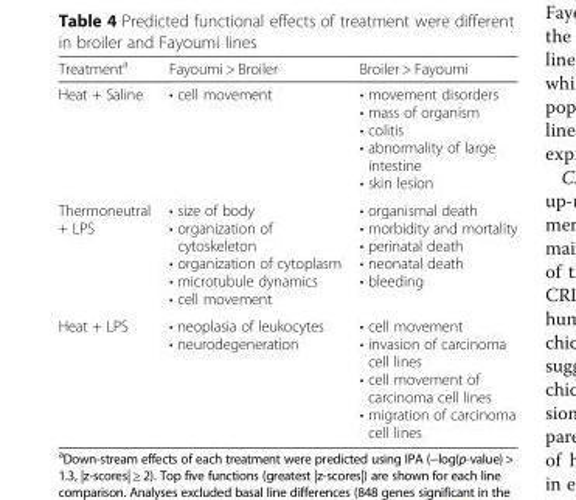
<table><thead><tr><td>Treatment<sup>a</sup></td><td>Fayoumi &gt; Broiler</td><td>Broiler &gt; Fayoumi</td></tr></thead><tbody><tr><td>Heat + Saline</td><td>• cell movement</td><td>• movement disorders • mass of organism • colitis • abnormality of large intestine • skin lesion</td></tr><tr><td>Thermoneutral + LPS</td><td>• size of body • organization of cytoskeleton • organization of cytoplasm • microtubule dynamics • cell movement</td><td>• organismal death • morbidity and mortality • perinatal death • neonatal death • bleeding</td></tr><tr><td>Heat + LPS</td><td>• neoplasia of leukocytes • neurodegeneration</td><td>• cell movement • invasion of carcinoma cell lines • cell movement of carcinoma cell lines • migration of carcinoma cell lines</td></tr></tbody></table>